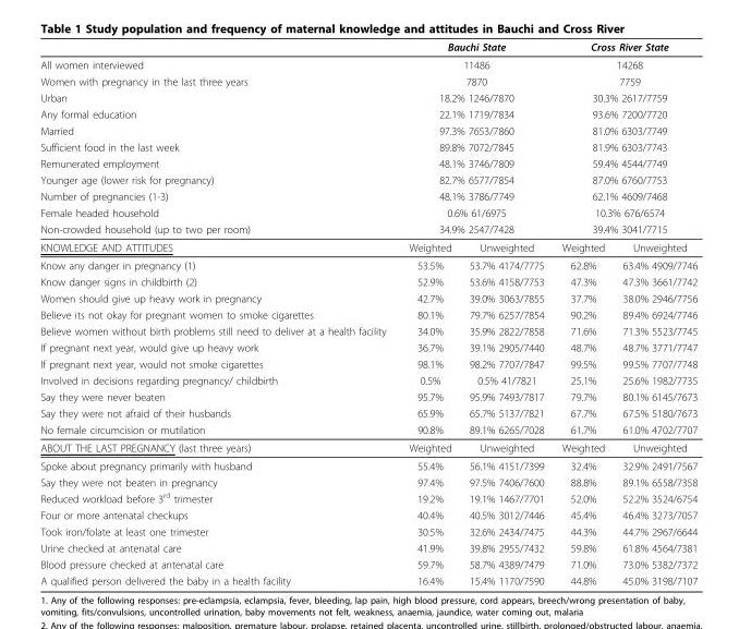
<table><thead><tr><td></td><td colspan="2">Bauchi State</td><td colspan="2">Cross River State</td></tr></thead><tbody><tr><td>All women interviewed</td><td colspan="2">11486</td><td colspan="2">14268</td></tr><tr><td>Women with pregnancy in the last three years</td><td colspan="2">7870</td><td colspan="2">7759</td></tr><tr><td>Urban</td><td colspan="2">18.2% 1246/7870</td><td colspan="2">30.3% 2617/7759</td></tr><tr><td>Any formal education</td><td colspan="2">22.1% 1719/7834</td><td colspan="2">93.6% 7200/7720</td></tr><tr><td>Married</td><td colspan="2">97.3% 7653/7860</td><td colspan="2">81.0% 6303/7749</td></tr><tr><td>Sufficient food in the last week</td><td colspan="2">89.8% 7072/7845</td><td colspan="2">81.9% 6303/7743</td></tr><tr><td>Remunerated employment</td><td colspan="2">48.1% 3746/7809</td><td colspan="2">59.4% 4544/7749</td></tr><tr><td>Younger age (lower risk for pregnancy)</td><td colspan="2">82.7% 6577/7854</td><td colspan="2">87.0% 6760/7753</td></tr><tr><td>Number of pregnancies (1-3)</td><td colspan="2">48.1% 3786/7749</td><td colspan="2">62.1% 4609/7468</td></tr><tr><td>Female headed household</td><td colspan="2">0.6% 61/6975</td><td colspan="2">10.3% 676/6574</td></tr><tr><td>Non-crowded household (up to two per room)</td><td colspan="2">34.9% 2547/7428</td><td colspan="2">39.4% 3041/7715</td></tr><tr><td>KNOWLEDGE AND ATTITUDES</td><td>Weighted</td><td>Unweighted</td><td>Weighted</td><td>Unweighted</td></tr><tr><td>Know any danger in pregnancy (1)</td><td>53.5%</td><td>53.7% 4174/7775</td><td>62.8%</td><td>63.4% 4909/7746</td></tr><tr><td>Know danger signs in childbirth (2)</td><td>52.9%</td><td>53.6% 4158/7753</td><td>47.3%</td><td>47.3% 3661/7742</td></tr><tr><td>Women should give up heavy work in pregnancy</td><td>42.7%</td><td>39.0% 3063/7855</td><td>37.7%</td><td>38.0% 2946/7756</td></tr><tr><td>Believe its not okay for pregnant women to smoke cigarettes</td><td>80.1%</td><td>79.7% 6257/7854</td><td>90.2%</td><td>89.4% 6924/7746</td></tr><tr><td>Believe women without birth problems still need to deliver at a health facility</td><td>34.0%</td><td>35.9% 2822/7858</td><td>71.6%</td><td>71.3% 5523/7745</td></tr><tr><td>If pregnant next year, would give up heavy work</td><td>36.7%</td><td>39.1% 2905/7440</td><td>48.7%</td><td>48.7% 3771/7747</td></tr><tr><td>If pregnant next year, would not smoke cigarettes</td><td>98.1%</td><td>98.2% 7707/7847</td><td>99.5%</td><td>99.5% 7707/7748</td></tr><tr><td>Involved in decisions regarding pregnancy/ childbirth</td><td>0.5%</td><td>0.5% 41/7821</td><td>25.1%</td><td>25.6% 1982/7735</td></tr><tr><td>Say they were never beaten</td><td>95.7%</td><td>95.9% 7493/7817</td><td>79.7%</td><td>80.1% 6145/7673</td></tr><tr><td>Say they were not afraid of their husbands</td><td>65.9%</td><td>65.7% 5137/7821</td><td>67.7%</td><td>67.5% 5180/7673</td></tr><tr><td>No female circumcision or mutilation</td><td>90.8%</td><td>89.1% 6265/7028</td><td>61.7%</td><td>61.0% 4702/7707</td></tr><tr><td>ABOUT THE LAST PREGNANCY (last three years)</td><td>Weighted</td><td>Unweighted</td><td>Weighted</td><td>Unweighted</td></tr><tr><td>Spoke about pregnancy primarily with husband</td><td>55.4%</td><td>56.1% 4151/7399</td><td>32.4%</td><td>32.9% 2491/7567</td></tr><tr><td>Say they were not beaten in pregnancy</td><td>97.4%</td><td>97.5% 7406/7600</td><td>88.8%</td><td>89.1% 6558/7358</td></tr><tr><td>Reduced workload before 3<sup>rd</sup> trimester</td><td>19.2%</td><td>19.1% 1467/7701</td><td>52.0%</td><td>52.2% 3524/6754</td></tr><tr><td>Four or more antenatal checkups</td><td>40.4%</td><td>40.5% 3012/7446</td><td>45.4%</td><td>46.4% 3273/7057</td></tr><tr><td>Took iron/folate at least one trimester</td><td>30.5%</td><td>32.6% 2434/7475</td><td>44.3%</td><td>44.7% 2967/6644</td></tr><tr><td>Urine checked at antenatal care</td><td>41.9%</td><td>39.8% 2955/7432</td><td>59.8%</td><td>61.8% 4564/7381</td></tr><tr><td>Blood pressure checked at antenatal care</td><td>59.7%</td><td>58.7% 4389/7479</td><td>71.0%</td><td>73.0% 5382/7372</td></tr><tr><td>A qualified person delivered the baby in a health facility</td><td>16.4%</td><td>15.4% 1170/7590</td><td>44.8%</td><td>45.0% 3198/7107</td></tr></tbody></table>